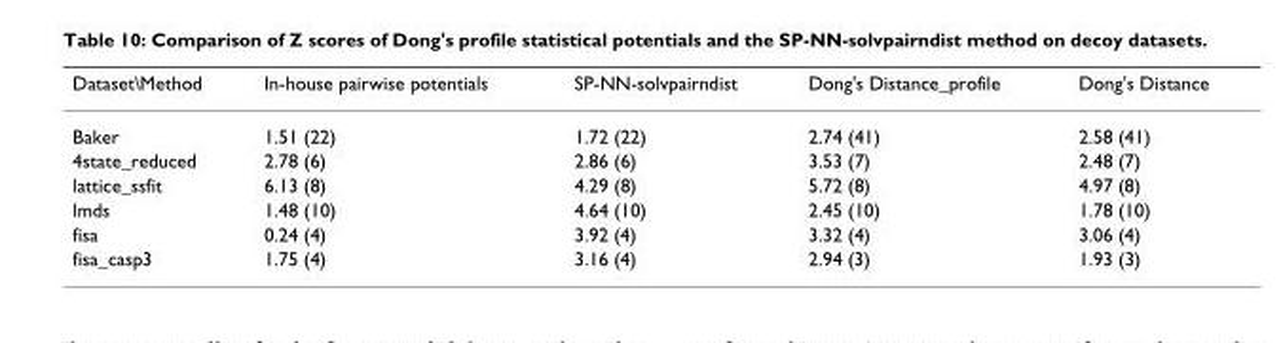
<table><thead><tr><td>Dataset\Method</td><td>In-house pairwise potentials</td><td>SP-NN-solvpairndist</td><td>Dong&#x27;s Distance_profile</td><td>Dong&#x27;s Distance</td></tr></thead><tbody><tr><td>Baker</td><td>1.51 (22)</td><td>1.72 (22)</td><td>2.74 (41)</td><td>2.58 (41)</td></tr><tr><td>4state_reduced</td><td>2.78 (6)</td><td>2.86 (6)</td><td>3.53 (7)</td><td>2.48 (7)</td></tr><tr><td>lattice_ssfit</td><td>6.13 (8)</td><td>4.29 (8)</td><td>5.72 (8)</td><td>4.97 (8)</td></tr><tr><td>lmds</td><td>1.48 (10)</td><td>4.64 (10)</td><td>2.45 (10)</td><td>1.78 (10)</td></tr><tr><td>fisa</td><td>0.24 (4)</td><td>3.92 (4)</td><td>3.32 (4)</td><td>3.06 (4)</td></tr><tr><td>fisa_casp3</td><td>1.75 (4)</td><td>3.16 (4)</td><td>2.94 (3)</td><td>1.93 (3)</td></tr></tbody></table>